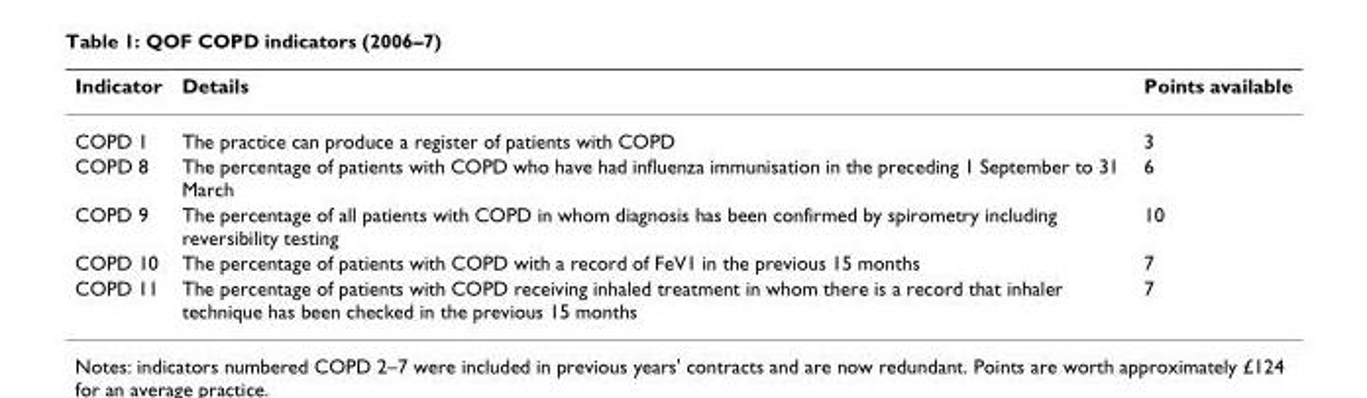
<table><thead><tr><td>Indicator</td><td>Details</td><td>Points available</td></tr></thead><tbody><tr><td>COPD 1</td><td>The practice can produce a register of patients with COPD</td><td>3</td></tr><tr><td>COPD 8</td><td>The percentage of patients with COPD who have had influenza immunisation in the preceding 1 September to 31 March</td><td>6</td></tr><tr><td>COPD 9</td><td>The percentage of all patients with COPD in whom diagnosis has been confirmed by spirometry including reversibility testing</td><td>10</td></tr><tr><td>COPD 10</td><td>The percentage of patients with COPD with a record of FeV1 in the previous 15 months</td><td>7</td></tr><tr><td>COPD 11</td><td>The percentage of patients with COPD receiving inhaled treatment in whom there is a record that inhaler technique has been checked in the previous 15 months</td><td>7</td></tr></tbody></table>